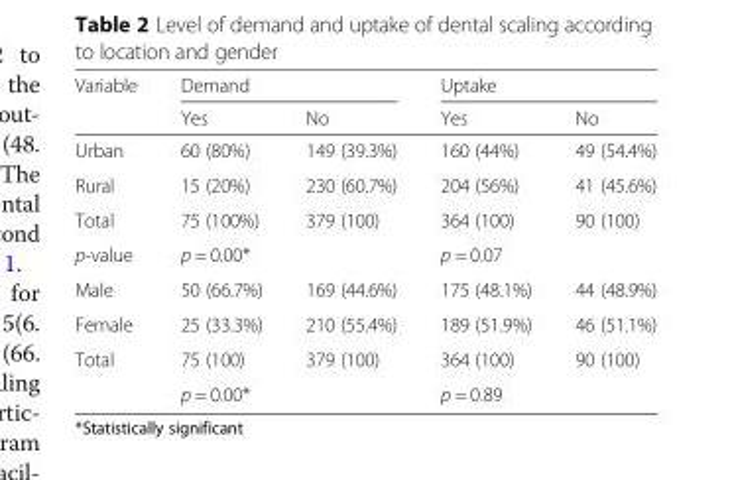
<table><thead><tr><td rowspan="2">Variable</td><td colspan="2">Demand</td><td colspan="2">Uptake</td></tr><tr><td>Yes</td><td>No</td><td>Yes</td><td>No</td></tr></thead><tbody><tr><td>Urban</td><td>60 (80%)</td><td>149 (39.3%)</td><td>160 (44%)</td><td>49 (54.4%)</td></tr><tr><td>Rural</td><td>15 (20%)</td><td>230 (60.7%)</td><td>204 (56%)</td><td>41 (45.6%)</td></tr><tr><td>Total</td><td>75 (100%)</td><td>379 (100)</td><td>364 (100)</td><td>90 (100)</td></tr><tr><td>p-value</td><td>p = 0.00*</td><td></td><td>p = 0.07</td><td></td></tr><tr><td>Male</td><td>50 (66.7%)</td><td>169 (44.6%)</td><td>175 (48.1%)</td><td>44 (48.9%)</td></tr><tr><td>Female</td><td>25 (33.3%)</td><td>210 (55.4%)</td><td>189 (51.9%)</td><td>46 (51.1%)</td></tr><tr><td rowspan="2">Total</td><td>75 (100)</td><td>379 (100)</td><td>364 (100)</td><td>90 (100)</td></tr><tr><td>p = 0.00*</td><td></td><td>p = 0.89</td><td></td></tr></tbody></table>